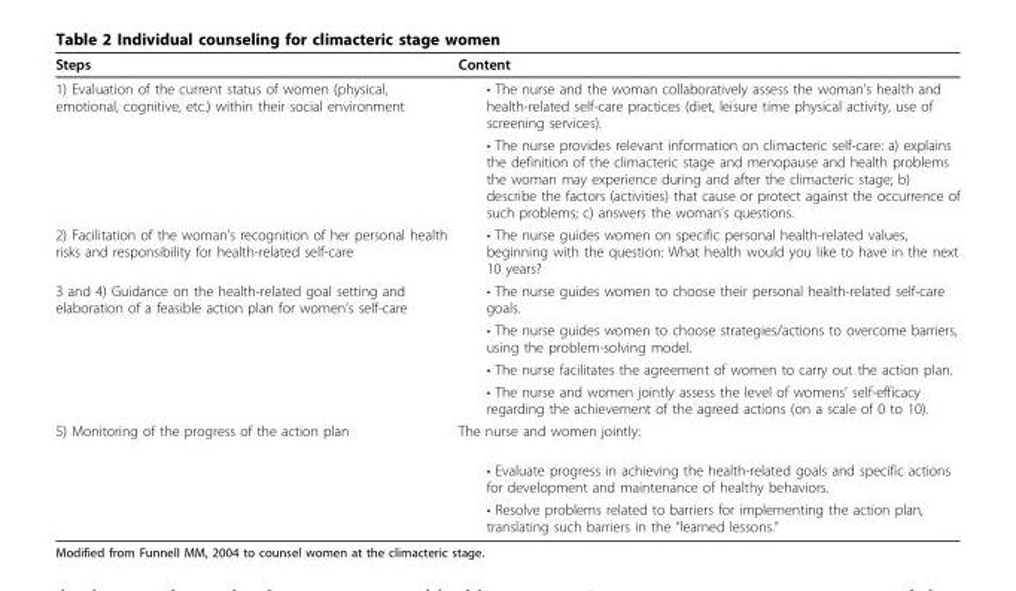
<table><thead><tr><td>Steps</td><td>Content</td></tr></thead><tbody><tr><td rowspan="2">1) Evaluation of the current status of women (physical, emotional, cognitive, etc.) within their social environment</td><td>• The nurse and the woman collaboratively assess the woman’s health and health-related self-care practices (diet, leisure time physical activity, use of screening services).</td></tr><tr><td>• The nurse provides relevant information on climacteric self-care: a) explains the definition of the climacteric stage and menopause and health problems the woman may experience during and after the climacteric stage; b) describe the factors (activities) that cause or protect against the occurrence of such problems; c) answers the woman’s questions.</td></tr><tr><td>2) Facilitation of the woman’s recognition of her personal health risks and responsibility for health-related self-care</td><td>• The nurse guides women on specific personal health-related values, beginning with the question: What health would you like to have in the next 10 years?</td></tr><tr><td rowspan="4">3 and 4) Guidance on the health-related goal setting and elaboration of a feasible action plan for women’s self-care</td><td>• The nurse guides women to choose their personal health-related self-care goals.</td></tr><tr><td>• The nurse guides women to choose strategies/actions to overcome barriers, using the problem-solving model.</td></tr><tr><td>• The nurse facilitates the agreement of women to carry out the action plan.</td></tr><tr><td>• The nurse and women jointly assess the level of womens’ self-efficacy regarding the achievement of the agreed actions (on a scale of 0 to 10).</td></tr><tr><td rowspan="3">5) Monitoring of the progress of the action plan</td><td>The nurse and women jointly:</td></tr><tr><td>• Evaluate progress in achieving the health-related goals and specific actions for development and maintenance of healthy behaviors.</td></tr><tr><td>• Resolve problems related to barriers for implementing the action plan, translating such barriers in the “learned lessons.”</td></tr></tbody></table>